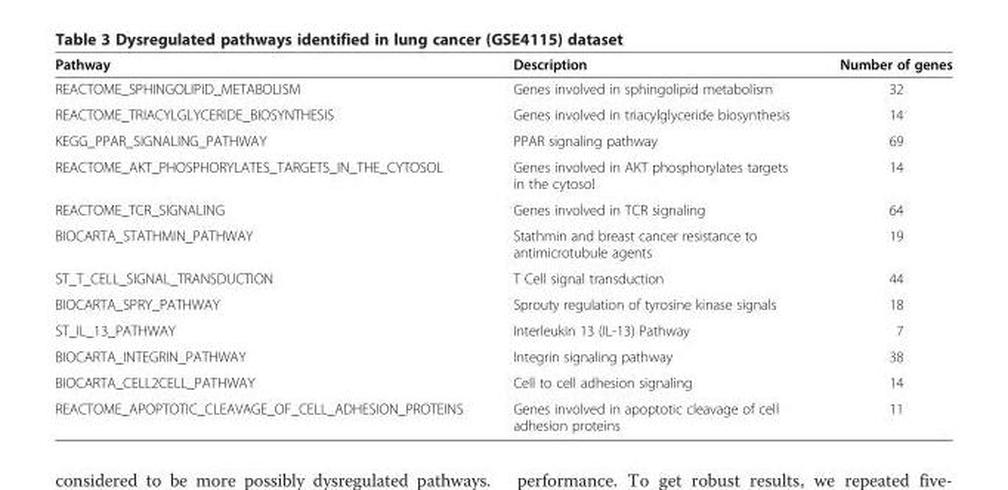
<table><thead><tr><td>Pathway</td><td>Description</td><td>Number of genes</td></tr></thead><tbody><tr><td>REACTOME_SPHINGOLIPID_METABOLISM</td><td>Genes involved in sphingolipid metabolism</td><td>32</td></tr><tr><td>REACTOME_TRIACYLGLYCERIDE_BIOSYNTHESIS</td><td>Genes involved in triacylglyceride biosynthesis</td><td>14</td></tr><tr><td>KEGG_PPAR_SIGNALING_PATHWAY</td><td>PPAR signaling pathway</td><td>69</td></tr><tr><td>REACTOME_AKT_PHOSPHORYLATES_TARGETS_IN_THE_CYTOSOL</td><td>Genes involved in AKT phosphorylates targets in the cytosol</td><td>14</td></tr><tr><td>REACTOME_TCR_SIGNALING</td><td>Genes involved in TCR signaling</td><td>64</td></tr><tr><td>BIOCARTA_STATHMIN_PATHWAY</td><td>Stathmin and breast cancer resistance to antimicrotubule agents</td><td>19</td></tr><tr><td>ST_T_CELL_SIGNAL_TRANSDUCTION</td><td>T Cell signal transduction</td><td>44</td></tr><tr><td>BIOCARTA_SPRY_PATHWAY</td><td>Sprouty regulation of tyrosine kinase signals</td><td>18</td></tr><tr><td>ST_IL_13_PATHWAY</td><td>Interleukin 13 (IL-13) Pathway</td><td>7</td></tr><tr><td>BIOCARTA_INTEGRIN_PATHWAY</td><td>Integrin signaling pathway</td><td>38</td></tr><tr><td>BIOCARTA_CELL2CELL_PATHWAY</td><td>Cell to cell adhesion signaling</td><td>14</td></tr><tr><td>REACTOME_APOPTOTIC_CLEAVAGE_OF_CELL_ADHESION_PROTEINS</td><td>Genes involved in apoptotic cleavage of cell adhesion proteins</td><td>11</td></tr></tbody></table>